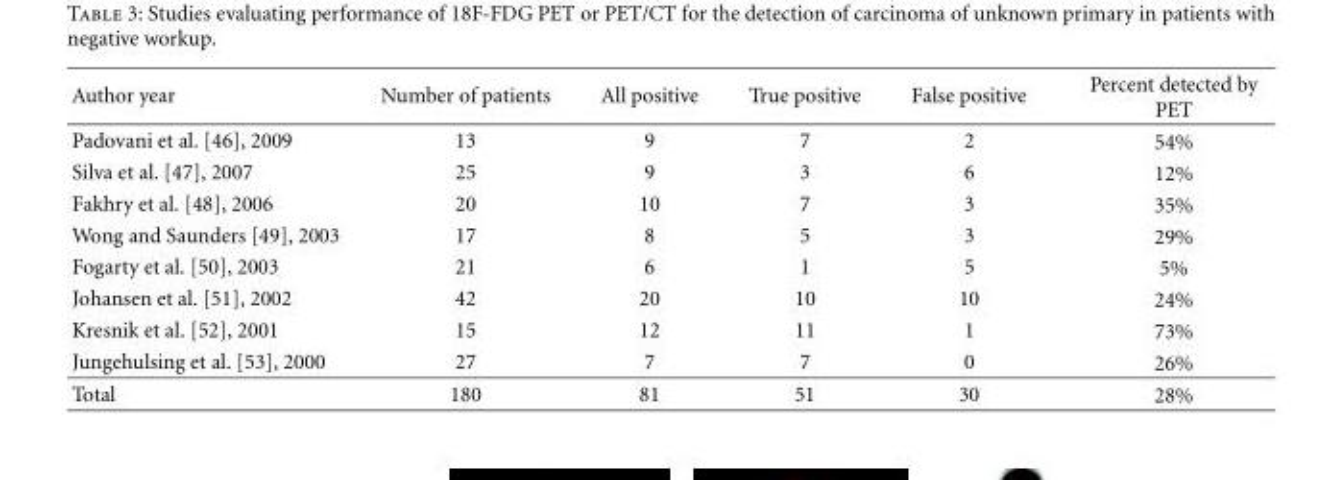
<table><thead><tr><td>Author year</td><td>Number of patients</td><td>All positive</td><td>True positive</td><td>False positive</td><td>Percent detected by PET</td></tr></thead><tbody><tr><td>Padovani et al. [46], 2009</td><td>13</td><td>9</td><td>7</td><td>2</td><td>54%</td></tr><tr><td>Silva et al. [47], 2007</td><td>25</td><td>9</td><td>3</td><td>6</td><td>12%</td></tr><tr><td>Fakhry et al. [48], 2006</td><td>20</td><td>10</td><td>7</td><td>3</td><td>35%</td></tr><tr><td>Wong and Saunders [49], 2003</td><td>17</td><td>8</td><td>5</td><td>3</td><td>29%</td></tr><tr><td>Fogarty et al. [50], 2003</td><td>21</td><td>6</td><td>1</td><td>5</td><td>5%</td></tr><tr><td>Johansen et al. [51], 2002</td><td>42</td><td>20</td><td>10</td><td>10</td><td>24%</td></tr><tr><td>Kresnik et al. [52], 2001</td><td>15</td><td>12</td><td>11</td><td>1</td><td>73%</td></tr><tr><td>Jungehulsing et al. [53], 2000</td><td>27</td><td>7</td><td>7</td><td>0</td><td>26%</td></tr><tr><td>Total</td><td>180</td><td>81</td><td>51</td><td>30</td><td>28%</td></tr></tbody></table>